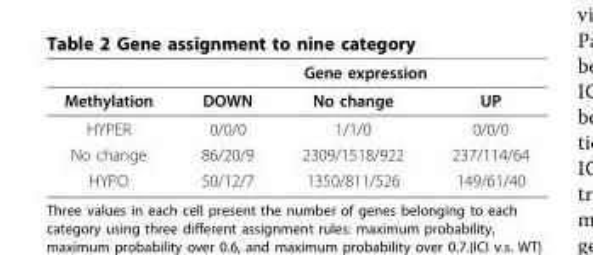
<table><thead><tr><td rowspan="2">Methylation</td><td colspan="3">Gene expression</td></tr><tr><td>DOWN</td><td>No change</td><td>UP</td></tr></thead><tbody><tr><td>HYPER</td><td>0/0/0</td><td>1/1/0</td><td>0/0/0</td></tr><tr><td>No change</td><td>86/20/9</td><td>2309/1518/922</td><td>237/114/64</td></tr><tr><td>HYPO</td><td>50/12/7</td><td>1350/811/526</td><td>149/61/40</td></tr></tbody></table>